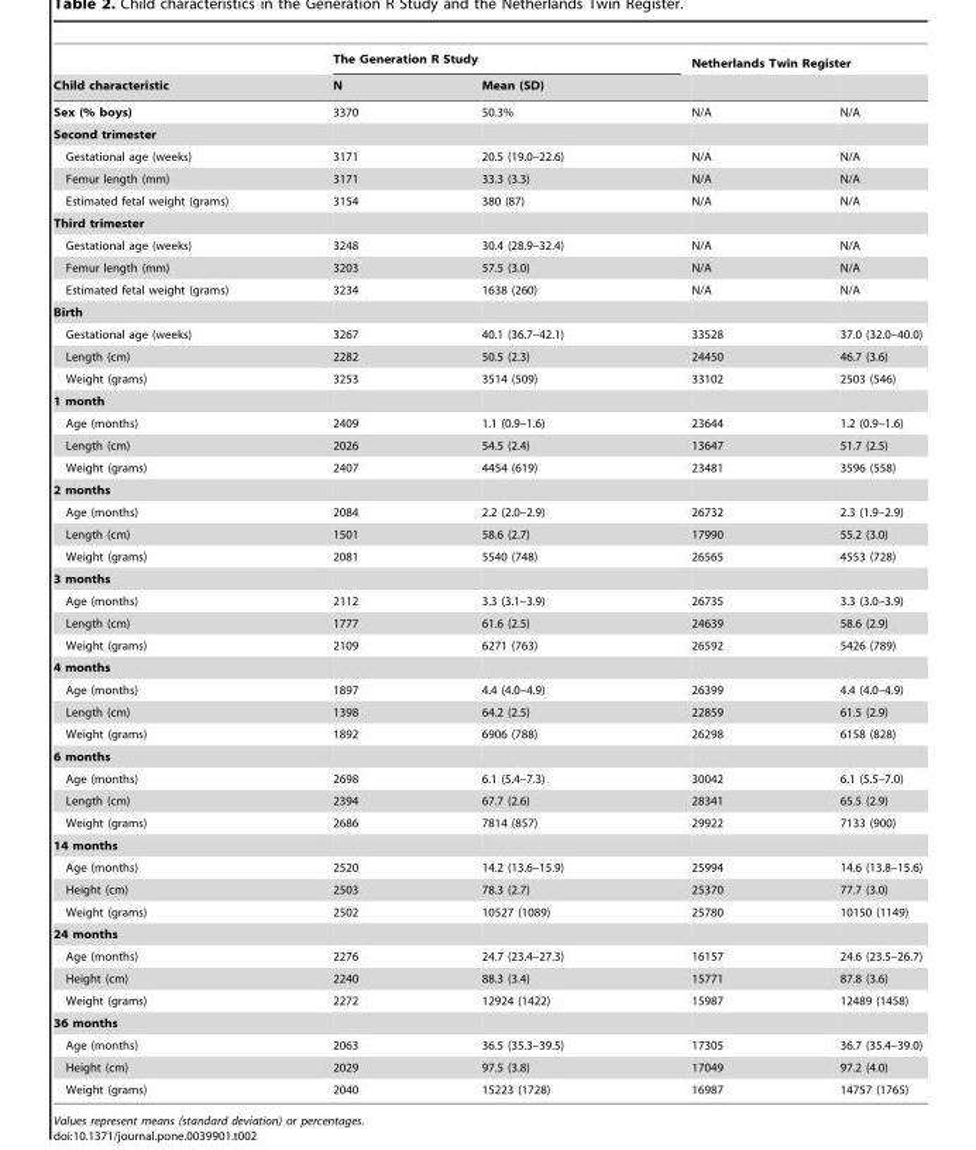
<table><thead><tr><td rowspan="2">Child characteristic</td><td colspan="2">The Generation R Study</td><td colspan="2">Netherlands Twin Register</td></tr><tr><td>N</td><td>Mean (SD)</td><td></td><td></td></tr></thead><tbody><tr><td>Sex (% boys)</td><td>3370</td><td>50.3%</td><td>N/A</td><td>N/A</td></tr><tr><td colspan="5">Second trimester</td></tr><tr><td>Gestational age (weeks)</td><td>3171</td><td>20.5 (19.0–22.6)</td><td>N/A</td><td>N/A</td></tr><tr><td>Femur length (mm)</td><td>3171</td><td>33.3 (3.3)</td><td>N/A</td><td>N/A</td></tr><tr><td>Estimated fetal weight (grams)</td><td>3154</td><td>380 (87)</td><td>N/A</td><td>N/A</td></tr><tr><td colspan="5">Third trimester</td></tr><tr><td>Gestational age (weeks)</td><td>3248</td><td>30.4 (28.9–32.4)</td><td>N/A</td><td>N/A</td></tr><tr><td>Femur length (mm)</td><td>3203</td><td>57.5 (3.0)</td><td>N/A</td><td>N/A</td></tr><tr><td>Estimated fetal weight (grams)</td><td>3234</td><td>1638 (260)</td><td>N/A</td><td>N/A</td></tr><tr><td colspan="5">Birth</td></tr><tr><td>Gestational age (weeks)</td><td>3267</td><td>40.1 (36.7–42.1)</td><td>33528</td><td>37.0 (32.0–40.0)</td></tr><tr><td>Length (cm)</td><td>2282</td><td>50.5 (2.3)</td><td>24450</td><td>46.7 (3.6)</td></tr><tr><td>Weight (grams)</td><td>3253</td><td>3514 (509)</td><td>33102</td><td>2503 (546)</td></tr><tr><td colspan="5">1 month</td></tr><tr><td>Age (months)</td><td>2409</td><td>1.1 (0.9–1.6)</td><td>23644</td><td>1.2 (0.9–1.6)</td></tr><tr><td>Length (cm)</td><td>2026</td><td>54.5 (2.4)</td><td>13647</td><td>51.7 (2.5)</td></tr><tr><td>Weight (grams)</td><td>2407</td><td>4454 (619)</td><td>23481</td><td>3596 (558)</td></tr><tr><td colspan="5">2 months</td></tr><tr><td>Age (months)</td><td>2084</td><td>2.2 (2.0–2.9)</td><td>26732</td><td>2.3 (1.9–2.9)</td></tr><tr><td>Length (cm)</td><td>1501</td><td>58.6 (2.7)</td><td>17990</td><td>55.2 (3.0)</td></tr><tr><td>Weight (grams)</td><td>2081</td><td>5540 (748)</td><td>26565</td><td>4553 (728)</td></tr><tr><td colspan="5">3 months</td></tr><tr><td>Age (months)</td><td>2112</td><td>3.3 (3.1–3.9)</td><td>26735</td><td>3.3 (3.0–3.9)</td></tr><tr><td>Length (cm)</td><td>1777</td><td>61.6 (2.5)</td><td>24639</td><td>58.6 (2.9)</td></tr><tr><td>Weight (grams)</td><td>2109</td><td>6271 (763)</td><td>26592</td><td>5426 (789)</td></tr><tr><td colspan="5">4 months</td></tr><tr><td>Age (months)</td><td>1897</td><td>4.4 (4.0–4.9)</td><td>26399</td><td>4.4 (4.0–4.9)</td></tr><tr><td>Length (cm)</td><td>1398</td><td>64.2 (2.5)</td><td>22859</td><td>61.5 (2.9)</td></tr><tr><td>Weight (grams)</td><td>1892</td><td>6906 (788)</td><td>26298</td><td>6158 (828)</td></tr><tr><td colspan="5">6 months</td></tr><tr><td>Age (months)</td><td>2698</td><td>6.1 (5.4–7.3)</td><td>30042</td><td>6.1 (5.5–7.0)</td></tr><tr><td>Length (cm)</td><td>2394</td><td>67.7 (2.6)</td><td>28341</td><td>65.5 (2.9)</td></tr><tr><td>Weight (grams)</td><td>2686</td><td>7814 (857)</td><td>29922</td><td>7133 (900)</td></tr><tr><td colspan="5">14 months</td></tr><tr><td>Age (months)</td><td>2520</td><td>14.2 (13.6–15.9)</td><td>25994</td><td>14.6 (13.8–15.6)</td></tr><tr><td>Height (cm)</td><td>2503</td><td>78.3 (2.7)</td><td>25370</td><td>77.7 (3.0)</td></tr><tr><td>Weight (grams)</td><td>2502</td><td>10527 (1089)</td><td>25780</td><td>10150 (1149)</td></tr><tr><td colspan="5">24 months</td></tr><tr><td>Age (months)</td><td>2276</td><td>24.7 (23.4–27.3)</td><td>16157</td><td>24.6 (23.5–26.7)</td></tr><tr><td>Height (cm)</td><td>2240</td><td>88.3 (3.4)</td><td>15771</td><td>87.8 (3.6)</td></tr><tr><td>Weight (grams)</td><td>2272</td><td>12924 (1422)</td><td>15987</td><td>12489 (1458)</td></tr><tr><td colspan="5">36 months</td></tr><tr><td>Age (months)</td><td>2063</td><td>36.5 (35.3–39.5)</td><td>17305</td><td>36.7 (35.4–39.0)</td></tr><tr><td>Height (cm)</td><td>2029</td><td>97.5 (3.8)</td><td>17049</td><td>97.2 (4.0)</td></tr><tr><td>Weight (grams)</td><td>2040</td><td>15223 (1728)</td><td>16987</td><td>14757 (1765)</td></tr></tbody></table>